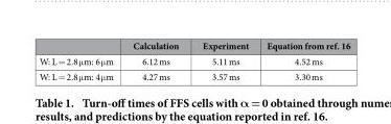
<table><thead><tr><td></td><td>Calculation</td><td>Experiment</td><td>Equation from ref. 16</td></tr></thead><tbody><tr><td>W: L = 2.8 μ m: 6 μ m</td><td>6.12 ms</td><td>5.11 ms</td><td>4.52 ms</td></tr><tr><td>W: L = 2.8 μ m: 4 μ m</td><td>4.27 ms</td><td>3.57 ms</td><td>3.30 ms</td></tr></tbody></table>